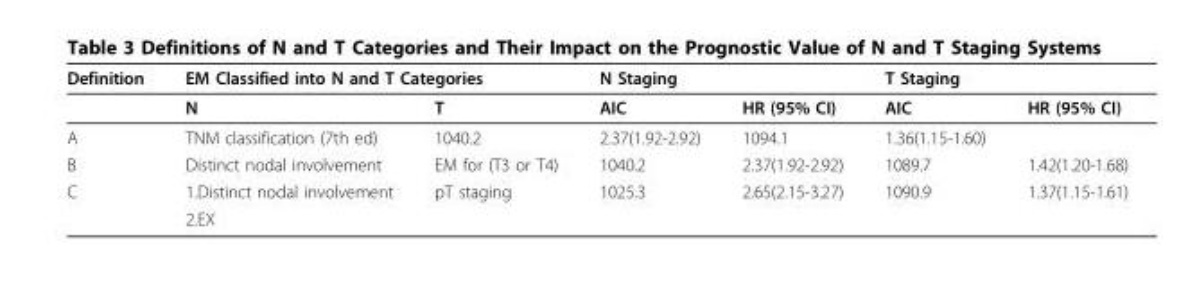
<table><thead><tr><td rowspan="2">Definition</td><td colspan="2">EM Classified into N and T Categories</td><td colspan="2">N Staging</td><td colspan="2">T Staging</td></tr><tr><td>N</td><td>T</td><td>AIC</td><td>HR (95% CI)</td><td>AIC</td><td>HR (95% CI)</td></tr></thead><tbody><tr><td>A</td><td>TNM classification (7th ed)</td><td>1040.2</td><td>2.37(1.92-2.92)</td><td>1094.1</td><td>1.36(1.15-1.60)</td><td></td></tr><tr><td>B</td><td>Distinct nodal involvement</td><td>EM for (T3 or T4)</td><td>1040.2</td><td>2.37(1.92-2.92)</td><td>1089.7</td><td>1.42(1.20-1.68)</td></tr><tr><td rowspan="2">C</td><td>1.Distinct nodal involvement</td><td>pT staging</td><td>1025.3</td><td>2.65(2.15-3.27)</td><td>1090.9</td><td>1.37(1.15-1.61)</td></tr><tr><td>2.EX</td><td></td><td></td><td></td><td></td><td></td></tr></tbody></table>